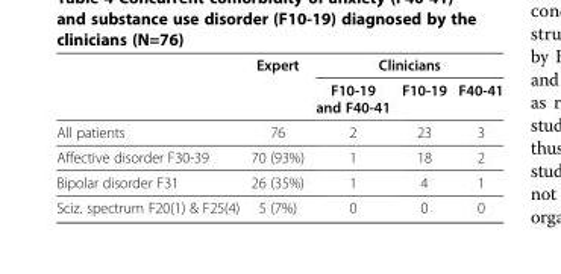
<table><thead><tr><td rowspan="2"></td><td rowspan="2">Expert</td><td colspan="3">Clinicians</td></tr><tr><td>F10-19 and F40-41</td><td>F10-19</td><td>F40-41</td></tr></thead><tbody><tr><td>All patients</td><td>76</td><td>2</td><td>23</td><td>3</td></tr><tr><td>Affective disorder F30-39</td><td>70 (93%)</td><td>1</td><td>18</td><td>2</td></tr><tr><td>Bipolar disorder F31</td><td>26 (35%)</td><td>1</td><td>4</td><td>1</td></tr><tr><td>Sciz. spectrum F20(1) &amp; F25(4)</td><td>5 (7%)</td><td>0</td><td>0</td><td>0</td></tr></tbody></table>